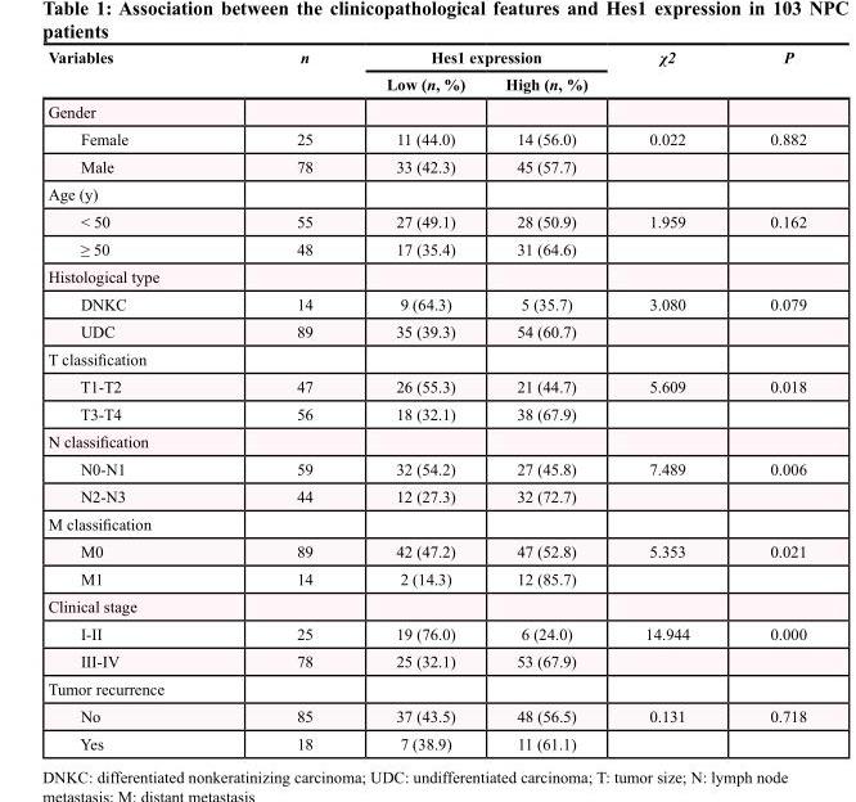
<table><thead><tr><td rowspan="2">Variables</td><td rowspan="2">n</td><td colspan="2">Hes1 expression</td><td rowspan="2">χ<sup>2</sup></td><td rowspan="2">P</td></tr><tr><td>Low (n, %)</td><td>High (n, %)</td></tr></thead><tbody><tr><td colspan="6">Gender</td></tr><tr><td>Female</td><td>25</td><td>11 (44.0)</td><td>14 (56.0)</td><td>0.022</td><td>0.882</td></tr><tr><td>Male</td><td>78</td><td>33 (42.3)</td><td>45 (57.7)</td><td></td><td></td></tr><tr><td colspan="6">Age (y)</td></tr><tr><td>&lt; 50</td><td>55</td><td>27 (49.1)</td><td>28 (50.9)</td><td>1.959</td><td>0.162</td></tr><tr><td>≥ 50</td><td>48</td><td>17 (35.4)</td><td>31 (64.6)</td><td></td><td></td></tr><tr><td colspan="6">Histological type</td></tr><tr><td>DNKC</td><td>14</td><td>9 (64.3)</td><td>5 (35.7)</td><td>3.080</td><td>0.079</td></tr><tr><td>UDC</td><td>89</td><td>35 (39.3)</td><td>54 (60.7)</td><td></td><td></td></tr><tr><td colspan="6">T classification</td></tr><tr><td>T1-T2</td><td>47</td><td>26 (55.3)</td><td>21 (44.7)</td><td>5.609</td><td>0.018</td></tr><tr><td>T3-T4</td><td>56</td><td>18 (32.1)</td><td>38 (67.9)</td><td></td><td></td></tr><tr><td colspan="6">N classification</td></tr><tr><td>N0-N1</td><td>59</td><td>32 (54.2)</td><td>27 (45.8)</td><td>7.489</td><td>0.006</td></tr><tr><td>N2-N3</td><td>44</td><td>12 (27.3)</td><td>32 (72.7)</td><td></td><td></td></tr><tr><td colspan="6">M classification</td></tr><tr><td>M0</td><td>89</td><td>42 (47.2)</td><td>47 (52.8)</td><td>5.353</td><td>0.021</td></tr><tr><td>M1</td><td>14</td><td>2 (14.3)</td><td>12 (85.7)</td><td></td><td></td></tr><tr><td colspan="6">Clinical stage</td></tr><tr><td>I-II</td><td>25</td><td>19 (76.0)</td><td>6 (24.0)</td><td>14.944</td><td>0.000</td></tr><tr><td>III-IV</td><td>78</td><td>25 (32.1)</td><td>53 (67.9)</td><td></td><td></td></tr><tr><td colspan="6">Tumor recurrence</td></tr><tr><td>No</td><td>85</td><td>37 (43.5)</td><td>48 (56.5)</td><td>0.131</td><td>0.718</td></tr><tr><td>Yes</td><td>18</td><td>7 (38.9)</td><td>11 (61.1)</td><td></td><td></td></tr></tbody></table>